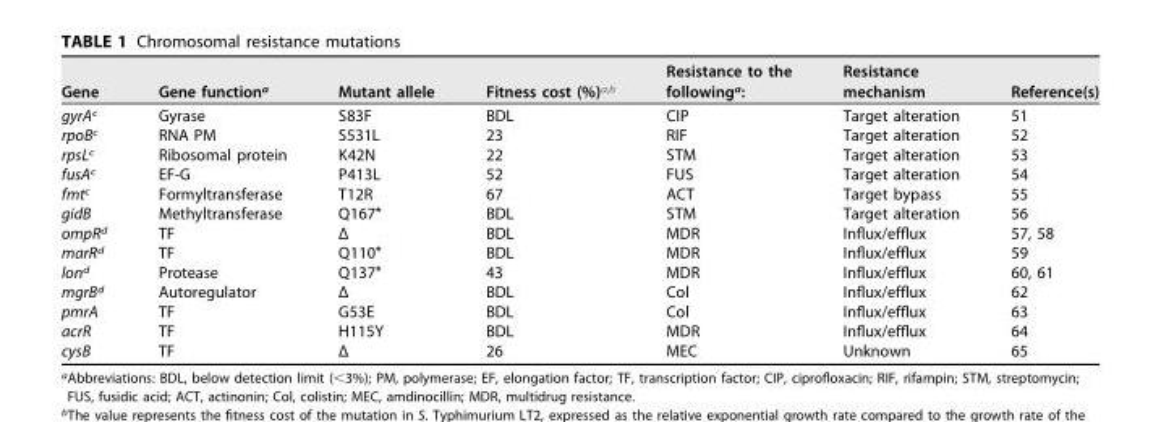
<table><thead><tr><td>Gene</td><td>Gene function<sup>a</sup></td><td>Mutant allele</td><td>Fitness cost (%)<sup>a,b</sup></td><td>Resistance to the following<sup>a</sup>:</td><td>Resistance mechanism</td><td>Reference(s)</td></tr></thead><tbody><tr><td>gyrA<sup>c</sup></td><td>Gyrase</td><td>S83F</td><td>BDL</td><td>CIP</td><td>Target alteration</td><td>51</td></tr><tr><td>rpoB<sup>c</sup></td><td>RNA PM</td><td>S531L</td><td>23</td><td>RIF</td><td>Target alteration</td><td>52</td></tr><tr><td>rpsL<sup>c</sup></td><td>Ribosomal protein</td><td>K42N</td><td>22</td><td>STM</td><td>Target alteration</td><td>53</td></tr><tr><td>fusA<sup>c</sup></td><td>EF-G</td><td>P413L</td><td>52</td><td>FUS</td><td>Target alteration</td><td>54</td></tr><tr><td>fmt<sup>c</sup></td><td>Formyltransferase</td><td>T12R</td><td>67</td><td>ACT</td><td>Target bypass</td><td>55</td></tr><tr><td>gidB</td><td>Methyltransferase</td><td>Q167*</td><td>BDL</td><td>STM</td><td>Target alteration</td><td>56</td></tr><tr><td>ompR<sup>d</sup></td><td>TF</td><td>Δ</td><td>BDL</td><td>MDR</td><td>Influx/efflux</td><td>57, 58</td></tr><tr><td>marR<sup>d</sup></td><td>TF</td><td>Q110*</td><td>BDL</td><td>MDR</td><td>Influx/efflux</td><td>59</td></tr><tr><td>lon<sup>d</sup></td><td>Protease</td><td>Q137*</td><td>43</td><td>MDR</td><td>Influx/efflux</td><td>60, 61</td></tr><tr><td>mgrB<sup>d</sup></td><td>Autoregulator</td><td>Δ</td><td>BDL</td><td>Col</td><td>Influx/efflux</td><td>62</td></tr><tr><td>pmrA</td><td>TF</td><td>G53E</td><td>BDL</td><td>Col</td><td>Influx/efflux</td><td>63</td></tr><tr><td>acrR</td><td>TF</td><td>H115Y</td><td>BDL</td><td>MDR</td><td>Influx/efflux</td><td>64</td></tr><tr><td>cysB</td><td>TF</td><td>Δ</td><td>26</td><td>MEC</td><td>Unknown</td><td>65</td></tr></tbody></table>